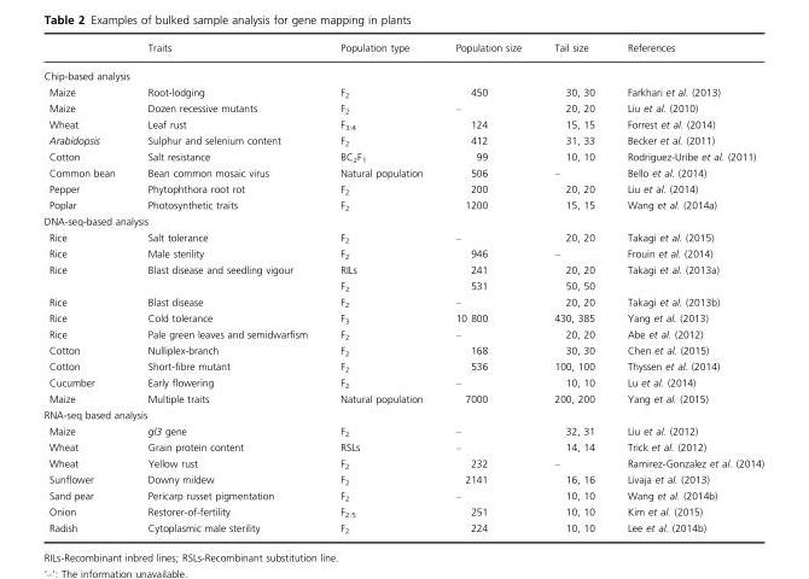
<table><thead><tr><td></td><td>Traits</td><td>Population type</td><td>Population size</td><td>Tail size</td><td>References</td></tr></thead><tbody><tr><td colspan="6">Chip-based analysis</td></tr><tr><td>Maize</td><td>Root-lodging</td><td>F<sub>2</sub></td><td>450</td><td>30, 30</td><td>Farkhari et al. (2013)</td></tr><tr><td>Maize</td><td>Dozen recessive mutants</td><td>F<sub>2</sub></td><td>–</td><td>20, 20</td><td>Liu et al. (2010)</td></tr><tr><td>Wheat</td><td>Leaf rust</td><td>F<sub>3:4</sub></td><td>124</td><td>15, 15</td><td>Forrest et al. (2014)</td></tr><tr><td>Arabidopsis</td><td>Sulphur and selenium content</td><td>F<sub>2</sub></td><td>412</td><td>31, 33</td><td>Becker et al. (2011)</td></tr><tr><td>Cotton</td><td>Salt resistance</td><td>BC<sub>2</sub>F<sub>1</sub></td><td>99</td><td>10, 10</td><td>Rodriguez-Uribe et al. (2011)</td></tr><tr><td>Common bean</td><td>Bean common mosaic virus</td><td>Natural population</td><td>506</td><td>–</td><td>Bello et al. (2014)</td></tr><tr><td>Pepper</td><td>Phytophthora root rot</td><td>F<sub>2</sub></td><td>200</td><td>20, 20</td><td>Liu et al. (2014)</td></tr><tr><td>Poplar</td><td>Photosynthetic traits</td><td>F<sub>2</sub></td><td>1200</td><td>15, 15</td><td>Wang et al. (2014a)</td></tr><tr><td colspan="6">DNA-seq-based analysis</td></tr><tr><td>Rice</td><td>Salt tolerance</td><td>F<sub>2</sub></td><td>–</td><td>20, 20</td><td>Takagi et al. (2015)</td></tr><tr><td>Rice</td><td>Male sterility</td><td>F<sub>2</sub></td><td>946</td><td>–</td><td>Frouin et al. (2014)</td></tr><tr><td rowspan="2">Rice</td><td rowspan="2">Blast disease and seedling vigour</td><td>RILs</td><td>241</td><td>20, 20</td><td rowspan="2">Takagi et al. (2013a)</td></tr><tr><td>F<sub>2</sub></td><td>531</td><td>50, 50</td></tr><tr><td>Rice</td><td>Blast disease</td><td>F<sub>2</sub></td><td>–</td><td>20, 20</td><td>Takagi et al. (2013b)</td></tr><tr><td>Rice</td><td>Cold tolerance</td><td>F<sub>3</sub></td><td>10 800</td><td>430, 385</td><td>Yang et al. (2013)</td></tr><tr><td>Rice</td><td>Pale green leaves and semidwarfism</td><td>F<sub>2</sub></td><td>–</td><td>20, 20</td><td>Abe et al. (2012)</td></tr><tr><td>Cotton</td><td>Nulliplex-branch</td><td>F<sub>2</sub></td><td>168</td><td>30, 30</td><td>Chen et al. (2015)</td></tr><tr><td>Cotton</td><td>Short-fibre mutant</td><td>F<sub>2</sub></td><td>536</td><td>100, 100</td><td>Thyssen et al. (2014)</td></tr><tr><td>Cucumber</td><td>Early flowering</td><td>F<sub>2</sub></td><td>–</td><td>10, 10</td><td>Lu et al. (2014)</td></tr><tr><td>Maize</td><td>Multiple traits</td><td>Natural population</td><td>7000</td><td>200, 200</td><td>Yang et al. (2015)</td></tr><tr><td colspan="6">RNA-seq based analysis</td></tr><tr><td>Maize</td><td>gl3 gene</td><td>F<sub>2</sub></td><td>–</td><td>32, 31</td><td>Liu et al. (2012)</td></tr><tr><td>Wheat</td><td>Grain protein content</td><td>RSLs</td><td>–</td><td>14, 14</td><td>Trick et al. (2012)</td></tr><tr><td>Wheat</td><td>Yellow rust</td><td>F<sub>2</sub></td><td>232</td><td>–</td><td>Ramirez-Gonzalez et al. (2014)</td></tr><tr><td>Sunflower</td><td>Downy mildew</td><td>F<sub>2</sub></td><td>2141</td><td>16, 16</td><td>Livaja et al. (2013)</td></tr><tr><td>Sand pear</td><td>Pericarp russet pigmentation</td><td>F<sub>2</sub></td><td>–</td><td>10, 10</td><td>Wang et al. (2014b)</td></tr><tr><td>Onion</td><td>Restorer-of-fertility</td><td>F<sub>2:5</sub></td><td>251</td><td>10, 10</td><td>Kim et al. (2015)</td></tr><tr><td>Radish</td><td>Cytoplasmic male sterility</td><td>F<sub>2</sub></td><td>224</td><td>10, 10</td><td>Lee et al. (2014b)</td></tr></tbody></table>